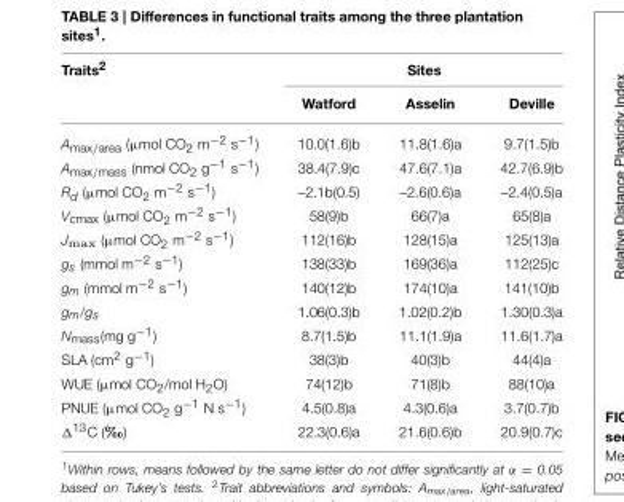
<table><thead><tr><td rowspan="2">Traits<sup>2</sup></td><td colspan="3">Sites</td></tr><tr><td>Watford</td><td>Asselin</td><td>Deville</td></tr></thead><tbody><tr><td>Amax/area (µmol CO2 m−2 s−1)</td><td>10.0(1.6)b</td><td>11.8(1.6)a</td><td>9.7(1.5)b</td></tr><tr><td>Amax/mass (nmol CO2 g−1 s−1)</td><td>38.4(7.9)c</td><td>47.6(7.1)a</td><td>42.7(6.9)b</td></tr><tr><td>R<sub>d</sub> (µmol CO<sub>2</sub> m<sup>−2</sup> s<sup>−1</sup>)</td><td>–2.1b(0.5)</td><td>–2.6(0.6)a</td><td>–2.4(0.5)a</td></tr><tr><td>V<sub>cmax</sub> (µmol CO<sub>2</sub> m<sup>−2</sup> s<sup>−1</sup>)</td><td>58(9)b</td><td>66(7)a</td><td>65(8)a</td></tr><tr><td>J<sub>max</sub> (µmol CO<sub>2</sub> m<sup>−2</sup> s<sup>−1</sup>)</td><td>112(16)b</td><td>128(15)a</td><td>125(13)a</td></tr><tr><td>g<sub>s</sub> (mmol m<sup>−2</sup> s<sup>−1</sup>)</td><td>138(33)b</td><td>169(36)a</td><td>112(25)c</td></tr><tr><td>g<sub>m</sub> (mmol m<sup>−2</sup> s<sup>−1</sup>)</td><td>140(12)b</td><td>174(10)a</td><td>141(10)b</td></tr><tr><td>g<sub>m</sub>/g<sub>s</sub></td><td>1.06(0.3)b</td><td>1.02(0.2)b</td><td>1.30(0.3)a</td></tr><tr><td>N<sub>mass</sub>(mg g<sup>−1</sup>)</td><td>8.7(1.5)b</td><td>11.1(1.9)a</td><td>11.6(1.7)a</td></tr><tr><td>SLA (cm<sup>2</sup> g<sup>−1</sup>)</td><td>38(3)b</td><td>40(3)b</td><td>44(4)a</td></tr><tr><td>WUE (µmol CO<sub>2</sub>/mol H<sub>2</sub>O)</td><td>74(12)b</td><td>71(8)b</td><td>88(10)a</td></tr><tr><td>PNUE (µmol CO<sub>2</sub> g<sup>−1</sup> N s<sup>−1</sup>)</td><td>4.5(0.8)a</td><td>4.3(0.6)a</td><td>3.7(0.7)b</td></tr><tr><td>Δ<sup>13</sup>C (‰)</td><td>22.3(0.6)a</td><td>21.6(0.6)b</td><td>20.9(0.7)c</td></tr></tbody></table>